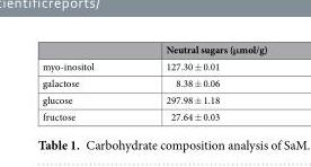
<table><thead><tr><td></td><td>Neutral sugars (μmol/g)</td></tr></thead><tbody><tr><td>myo-inositol</td><td>127.30 ± 0.01</td></tr><tr><td>galactose</td><td>8.38 ± 0.06</td></tr><tr><td>glucose</td><td>297.98 ± 1.18</td></tr><tr><td>fructose</td><td>27.64 ± 0.03</td></tr></tbody></table>